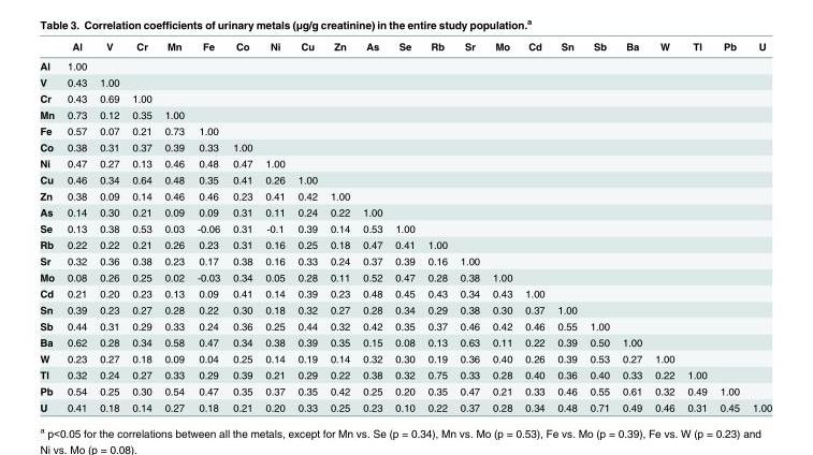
<table><thead><tr><td></td><td>Al</td><td>V</td><td>Cr</td><td>Mn</td><td>Fe</td><td>Co</td><td>Ni</td><td>Cu</td><td>Zn</td><td>As</td><td>Se</td><td>Rb</td><td>Sr</td><td>Mo</td><td>Cd</td><td>Sn</td><td>Sb</td><td>Ba</td><td>W</td><td>Tl</td><td>Pb</td><td>U</td></tr></thead><tbody><tr><td>Al</td><td>1.00</td><td></td><td></td><td></td><td></td><td></td><td></td><td></td><td></td><td></td><td></td><td></td><td></td><td></td><td></td><td></td><td></td><td></td><td></td><td></td><td></td><td></td></tr><tr><td>V</td><td>0.43</td><td>1.00</td><td></td><td></td><td></td><td></td><td></td><td></td><td></td><td></td><td></td><td></td><td></td><td></td><td></td><td></td><td></td><td></td><td></td><td></td><td></td><td></td></tr><tr><td>Cr</td><td>0.43</td><td>0.69</td><td>1.00</td><td></td><td></td><td></td><td></td><td></td><td></td><td></td><td></td><td></td><td></td><td></td><td></td><td></td><td></td><td></td><td></td><td></td><td></td><td></td></tr><tr><td>Mn</td><td>0.73</td><td>0.12</td><td>0.35</td><td>1.00</td><td></td><td></td><td></td><td></td><td></td><td></td><td></td><td></td><td></td><td></td><td></td><td></td><td></td><td></td><td></td><td></td><td></td><td></td></tr><tr><td>Fe</td><td>0.57</td><td>0.07</td><td>0.21</td><td>0.73</td><td>1.00</td><td></td><td></td><td></td><td></td><td></td><td></td><td></td><td></td><td></td><td></td><td></td><td></td><td></td><td></td><td></td><td></td><td></td></tr><tr><td>Co</td><td>0.38</td><td>0.31</td><td>0.37</td><td>0.39</td><td>0.33</td><td>1.00</td><td></td><td></td><td></td><td></td><td></td><td></td><td></td><td></td><td></td><td></td><td></td><td></td><td></td><td></td><td></td><td></td></tr><tr><td>Ni</td><td>0.47</td><td>0.27</td><td>0.13</td><td>0.46</td><td>0.48</td><td>0.47</td><td>1.00</td><td></td><td></td><td></td><td></td><td></td><td></td><td></td><td></td><td></td><td></td><td></td><td></td><td></td><td></td><td></td></tr><tr><td>Cu</td><td>0.46</td><td>0.34</td><td>0.64</td><td>0.48</td><td>0.35</td><td>0.41</td><td>0.26</td><td>1.00</td><td></td><td></td><td></td><td></td><td></td><td></td><td></td><td></td><td></td><td></td><td></td><td></td><td></td><td></td></tr><tr><td>Zn</td><td>0.38</td><td>0.09</td><td>0.14</td><td>0.46</td><td>0.46</td><td>0.23</td><td>0.41</td><td>0.42</td><td>1.00</td><td></td><td></td><td></td><td></td><td></td><td></td><td></td><td></td><td></td><td></td><td></td><td></td><td></td></tr><tr><td>As</td><td>0.14</td><td>0.30</td><td>0.21</td><td>0.09</td><td>0.09</td><td>0.31</td><td>0.11</td><td>0.24</td><td>0.22</td><td>1.00</td><td></td><td></td><td></td><td></td><td></td><td></td><td></td><td></td><td></td><td></td><td></td><td></td></tr><tr><td>Se</td><td>0.13</td><td>0.38</td><td>0.53</td><td>0.03</td><td>-0.06</td><td>0.31</td><td>-0.1</td><td>0.39</td><td>0.14</td><td>0.53</td><td>1.00</td><td></td><td></td><td></td><td></td><td></td><td></td><td></td><td></td><td></td><td></td><td></td></tr><tr><td>Rb</td><td>0.22</td><td>0.22</td><td>0.21</td><td>0.26</td><td>0.23</td><td>0.31</td><td>0.16</td><td>0.25</td><td>0.18</td><td>0.47</td><td>0.41</td><td>1.00</td><td></td><td></td><td></td><td></td><td></td><td></td><td></td><td></td><td></td><td></td></tr><tr><td>Sr</td><td>0.32</td><td>0.36</td><td>0.38</td><td>0.23</td><td>0.17</td><td>0.38</td><td>0.16</td><td>0.33</td><td>0.24</td><td>0.37</td><td>0.39</td><td>0.16</td><td>1.00</td><td></td><td></td><td></td><td></td><td></td><td></td><td></td><td></td><td></td></tr><tr><td>Mo</td><td>0.08</td><td>0.26</td><td>0.25</td><td>0.02</td><td>-0.03</td><td>0.34</td><td>0.05</td><td>0.28</td><td>0.11</td><td>0.52</td><td>0.47</td><td>0.28</td><td>0.38</td><td>1.00</td><td></td><td></td><td></td><td></td><td></td><td></td><td></td><td></td></tr><tr><td>Cd</td><td>0.21</td><td>0.20</td><td>0.23</td><td>0.13</td><td>0.09</td><td>0.41</td><td>0.14</td><td>0.39</td><td>0.23</td><td>0.48</td><td>0.45</td><td>0.43</td><td>0.34</td><td>0.43</td><td>1.00</td><td></td><td></td><td></td><td></td><td></td><td></td><td></td></tr><tr><td>Sn</td><td>0.39</td><td>0.23</td><td>0.27</td><td>0.28</td><td>0.22</td><td>0.30</td><td>0.18</td><td>0.32</td><td>0.27</td><td>0.28</td><td>0.34</td><td>0.29</td><td>0.38</td><td>0.30</td><td>0.37</td><td>1.00</td><td></td><td></td><td></td><td></td><td></td><td></td></tr><tr><td>Sb</td><td>0.44</td><td>0.31</td><td>0.29</td><td>0.33</td><td>0.24</td><td>0.36</td><td>0.25</td><td>0.44</td><td>0.32</td><td>0.42</td><td>0.35</td><td>0.37</td><td>0.46</td><td>0.42</td><td>0.46</td><td>0.55</td><td>1.00</td><td></td><td></td><td></td><td></td><td></td></tr><tr><td>Ba</td><td>0.62</td><td>0.28</td><td>0.34</td><td>0.58</td><td>0.47</td><td>0.34</td><td>0.38</td><td>0.39</td><td>0.35</td><td>0.15</td><td>0.08</td><td>0.13</td><td>0.63</td><td>0.11</td><td>0.22</td><td>0.39</td><td>0.50</td><td>1.00</td><td></td><td></td><td></td><td></td></tr><tr><td>W</td><td>0.23</td><td>0.27</td><td>0.18</td><td>0.09</td><td>0.04</td><td>0.25</td><td>0.14</td><td>0.19</td><td>0.14</td><td>0.32</td><td>0.30</td><td>0.19</td><td>0.36</td><td>0.40</td><td>0.26</td><td>0.39</td><td>0.53</td><td>0.27</td><td>1.00</td><td></td><td></td><td></td></tr><tr><td>Tl</td><td>0.32</td><td>0.24</td><td>0.27</td><td>0.33</td><td>0.29</td><td>0.39</td><td>0.21</td><td>0.29</td><td>0.22</td><td>0.38</td><td>0.32</td><td>0.75</td><td>0.33</td><td>0.28</td><td>0.40</td><td>0.36</td><td>0.40</td><td>0.33</td><td>0.22</td><td>1.00</td><td></td><td></td></tr><tr><td>Pb</td><td>0.54</td><td>0.25</td><td>0.30</td><td>0.54</td><td>0.47</td><td>0.35</td><td>0.37</td><td>0.35</td><td>0.42</td><td>0.25</td><td>0.20</td><td>0.35</td><td>0.47</td><td>0.21</td><td>0.33</td><td>0.46</td><td>0.55</td><td>0.61</td><td>0.32</td><td>0.49</td><td>1.00</td><td></td></tr><tr><td>U</td><td>0.41</td><td>0.18</td><td>0.14</td><td>0.27</td><td>0.18</td><td>0.21</td><td>0.20</td><td>0.33</td><td>0.25</td><td>0.23</td><td>0.10</td><td>0.22</td><td>0.37</td><td>0.28</td><td>0.34</td><td>0.48</td><td>0.71</td><td>0.49</td><td>0.46</td><td>0.31</td><td>0.45</td><td>1.00</td></tr></tbody></table>